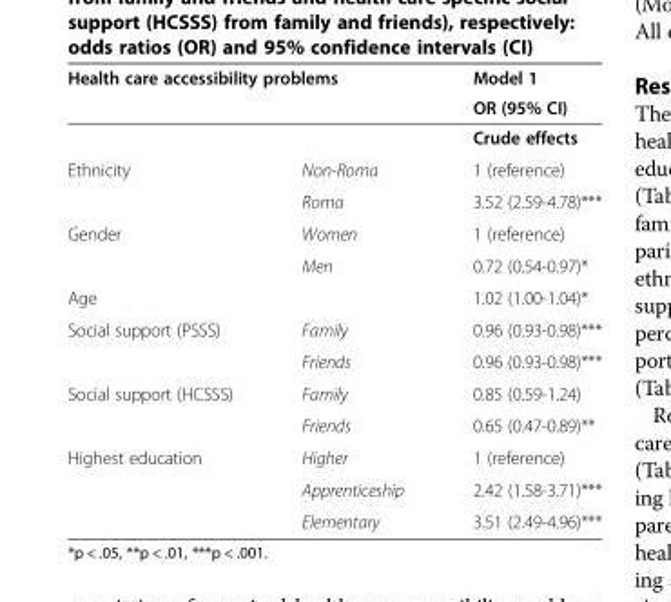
<table><thead><tr><td rowspan="2" colspan="2">Health care accessibility problems</td><td rowspan="3">Model 1 OR (95% CI) Crude effects</td></tr><tr></tr><tr><td></td><td></td></tr></thead><tbody><tr><td rowspan="2">Ethnicity</td><td>Non-Roma</td><td>1 (reference)</td></tr><tr><td>Roma</td><td>3.52 (2.59-4.78)***</td></tr><tr><td rowspan="2">Gender</td><td>Women</td><td>1 (reference)</td></tr><tr><td>Men</td><td>0.72 (0.54-0.97)*</td></tr><tr><td>Age</td><td></td><td>1.02 (1.00-1.04)*</td></tr><tr><td rowspan="2">Social support (PSSS)</td><td>Family</td><td>0.96 (0.93-0.98)***</td></tr><tr><td>Friends</td><td>0.96 (0.93-0.98)***</td></tr><tr><td rowspan="2">Social support (HCSSS)</td><td>Family</td><td>0.85 (0.59-1.24)</td></tr><tr><td>Friends</td><td>0.65 (0.47-0.89)**</td></tr><tr><td rowspan="3">Highest education</td><td>Higher</td><td>1 (reference)</td></tr><tr><td>Apprenticeship</td><td>2.42 (1.58-3.71)***</td></tr><tr><td>Elementary</td><td>3.51 (2.49-4.96)***</td></tr></tbody></table>